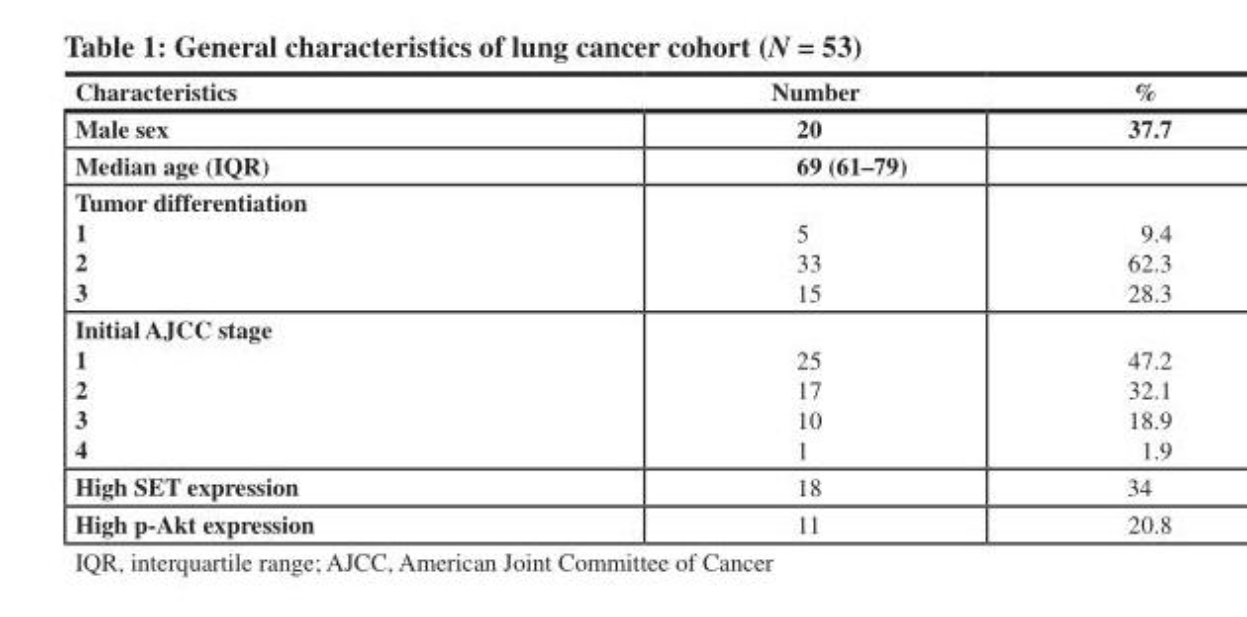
<table><thead><tr><td>Characteristics</td><td>Number</td><td>%</td></tr></thead><tbody><tr><td>Male sex</td><td>20</td><td>37.7</td></tr><tr><td>Median age (IQR)</td><td>69 (61–79)</td><td></td></tr><tr><td>Tumor differentiation 1 2 3</td><td>5 33 15</td><td>9.4 62.3 28.3</td></tr><tr><td>Initial AJCC stage 1 2 3 4</td><td>25 17 10 1</td><td>47.2 32.1 18.9 1.9</td></tr><tr><td>High SET expression</td><td>18</td><td>34</td></tr><tr><td>High p-Akt expression</td><td>11</td><td>20.8</td></tr></tbody></table>